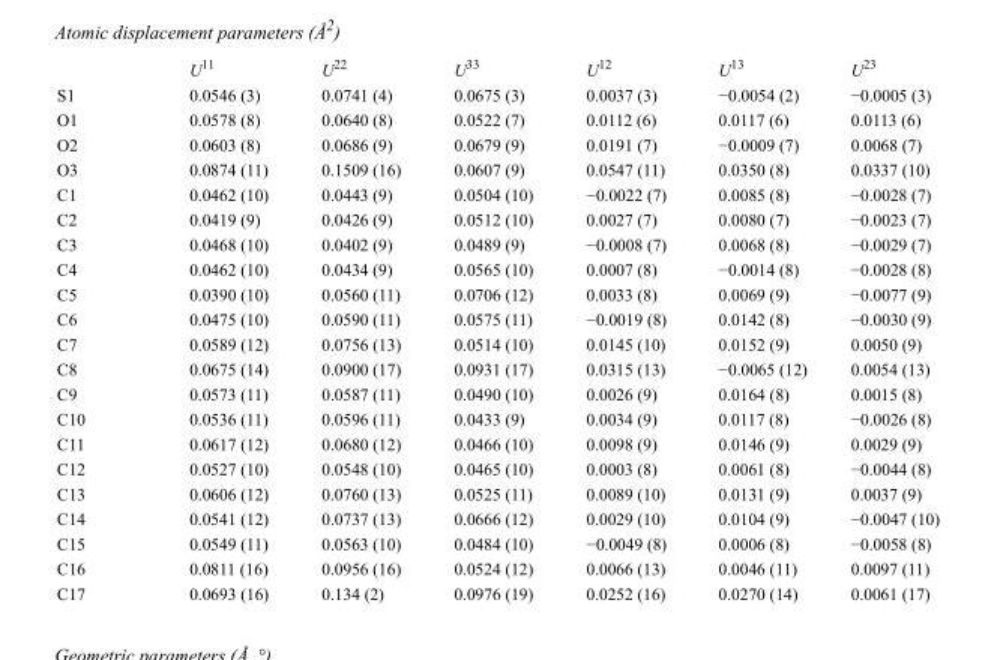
<table><thead><tr><td></td><td>U<sup>11</sup></td><td>U<sup>22</sup></td><td>U<sup>33</sup></td><td>U<sup>12</sup></td><td>U<sup>13</sup></td><td>U<sup>23</sup></td></tr></thead><tbody><tr><td>S1</td><td>0.0546 (3)</td><td>0.0741 (4)</td><td>0.0675 (3)</td><td>0.0037 (3)</td><td>−0.0054 (2)</td><td>−0.0005 (3)</td></tr><tr><td>O1</td><td>0.0578 (8)</td><td>0.0640 (8)</td><td>0.0522 (7)</td><td>0.0112 (6)</td><td>0.0117 (6)</td><td>0.0113 (6)</td></tr><tr><td>O2</td><td>0.0603 (8)</td><td>0.0686 (9)</td><td>0.0679 (9)</td><td>0.0191 (7)</td><td>−0.0009 (7)</td><td>0.0068 (7)</td></tr><tr><td>O3</td><td>0.0874 (11)</td><td>0.1509 (16)</td><td>0.0607 (9)</td><td>0.0547 (11)</td><td>0.0350 (8)</td><td>0.0337 (10)</td></tr><tr><td>C1</td><td>0.0462 (10)</td><td>0.0443 (9)</td><td>0.0504 (10)</td><td>−0.0022 (7)</td><td>0.0085 (8)</td><td>−0.0028 (7)</td></tr><tr><td>C2</td><td>0.0419 (9)</td><td>0.0426 (9)</td><td>0.0512 (10)</td><td>0.0027 (7)</td><td>0.0080 (7)</td><td>−0.0023 (7)</td></tr><tr><td>C3</td><td>0.0468 (10)</td><td>0.0402 (9)</td><td>0.0489 (9)</td><td>−0.0008 (7)</td><td>0.0068 (8)</td><td>−0.0029 (7)</td></tr><tr><td>C4</td><td>0.0462 (10)</td><td>0.0434 (9)</td><td>0.0565 (10)</td><td>0.0007 (8)</td><td>−0.0014 (8)</td><td>−0.0028 (8)</td></tr><tr><td>C5</td><td>0.0390 (10)</td><td>0.0560 (11)</td><td>0.0706 (12)</td><td>0.0033 (8)</td><td>0.0069 (9)</td><td>−0.0077 (9)</td></tr><tr><td>C6</td><td>0.0475 (10)</td><td>0.0590 (11)</td><td>0.0575 (11)</td><td>−0.0019 (8)</td><td>0.0142 (8)</td><td>−0.0030 (9)</td></tr><tr><td>C7</td><td>0.0589 (12)</td><td>0.0756 (13)</td><td>0.0514 (10)</td><td>0.0145 (10)</td><td>0.0152 (9)</td><td>0.0050 (9)</td></tr><tr><td>C8</td><td>0.0675 (14)</td><td>0.0900 (17)</td><td>0.0931 (17)</td><td>0.0315 (13)</td><td>−0.0065 (12)</td><td>0.0054 (13)</td></tr><tr><td>C9</td><td>0.0573 (11)</td><td>0.0587 (11)</td><td>0.0490 (10)</td><td>0.0026 (9)</td><td>0.0164 (8)</td><td>0.0015 (8)</td></tr><tr><td>C10</td><td>0.0536 (11)</td><td>0.0596 (11)</td><td>0.0433 (9)</td><td>0.0034 (9)</td><td>0.0117 (8)</td><td>−0.0026 (8)</td></tr><tr><td>C11</td><td>0.0617 (12)</td><td>0.0680 (12)</td><td>0.0466 (10)</td><td>0.0098 (9)</td><td>0.0146 (9)</td><td>0.0029 (9)</td></tr><tr><td>C12</td><td>0.0527 (10)</td><td>0.0548 (10)</td><td>0.0465 (10)</td><td>0.0003 (8)</td><td>0.0061 (8)</td><td>−0.0044 (8)</td></tr><tr><td>C13</td><td>0.0606 (12)</td><td>0.0760 (13)</td><td>0.0525 (11)</td><td>0.0089 (10)</td><td>0.0131 (9)</td><td>0.0037 (9)</td></tr><tr><td>C14</td><td>0.0541 (12)</td><td>0.0737 (13)</td><td>0.0666 (12)</td><td>0.0029 (10)</td><td>0.0104 (9)</td><td>−0.0047 (10)</td></tr><tr><td>C15</td><td>0.0549 (11)</td><td>0.0563 (10)</td><td>0.0484 (10)</td><td>−0.0049 (8)</td><td>0.0006 (8)</td><td>−0.0058 (8)</td></tr><tr><td>C16</td><td>0.0811 (16)</td><td>0.0956 (16)</td><td>0.0524 (12)</td><td>0.0066 (13)</td><td>0.0046 (11)</td><td>0.0097 (11)</td></tr><tr><td>C17</td><td>0.0693 (16)</td><td>0.134 (2)</td><td>0.0976 (19)</td><td>0.0252 (16)</td><td>0.0270 (14)</td><td>0.0061 (17)</td></tr></tbody></table>